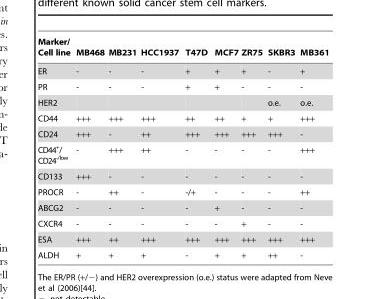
<table><thead><tr><td>Marker/ Cell line</td><td>MB468</td><td>MB231</td><td>HCC1937</td><td>T47D</td><td>MCF7</td><td>ZR75</td><td>SKBR3</td><td>MB361</td></tr></thead><tbody><tr><td>ER</td><td>-</td><td>-</td><td>-</td><td>+</td><td>+</td><td>+</td><td>-</td><td>+</td></tr><tr><td>PR</td><td>-</td><td>-</td><td>-</td><td>+</td><td>+</td><td>-</td><td>-</td><td>-</td></tr><tr><td>HER2</td><td></td><td></td><td></td><td></td><td></td><td></td><td>o.e.</td><td>o.e.</td></tr><tr><td>CD44</td><td>+++</td><td>+++</td><td>+++</td><td>++</td><td>++</td><td>+</td><td>+</td><td>+++</td></tr><tr><td>CD24</td><td>+++</td><td>-</td><td>++</td><td>+++</td><td>+++</td><td>+++</td><td>+++</td><td>-</td></tr><tr><td>CD44<sup>+</sup>/ CD24<sup>-/low</sup></td><td>-</td><td>+++</td><td>++</td><td>-</td><td>-</td><td>-</td><td>-</td><td>+++</td></tr><tr><td>CD133</td><td>+++</td><td>-</td><td>-</td><td>-</td><td>-</td><td>-</td><td>-</td><td>-</td></tr><tr><td>PROCR</td><td>-</td><td>++</td><td>-</td><td>-/+</td><td>-</td><td>-</td><td>-</td><td>++</td></tr><tr><td>ABCG2</td><td>-</td><td>-</td><td>-</td><td>-</td><td>+</td><td>-</td><td>-</td><td>-</td></tr><tr><td>CXCR4</td><td>-</td><td>-</td><td>-</td><td>-</td><td>-</td><td>+</td><td>-</td><td>-</td></tr><tr><td>ESA</td><td>+++</td><td>++</td><td>+++</td><td>+++</td><td>+++</td><td>+++</td><td>+++</td><td>+++</td></tr><tr><td>ALDH</td><td>+</td><td>+</td><td>+</td><td>-</td><td>+</td><td>+</td><td>++</td><td>-</td></tr></tbody></table>